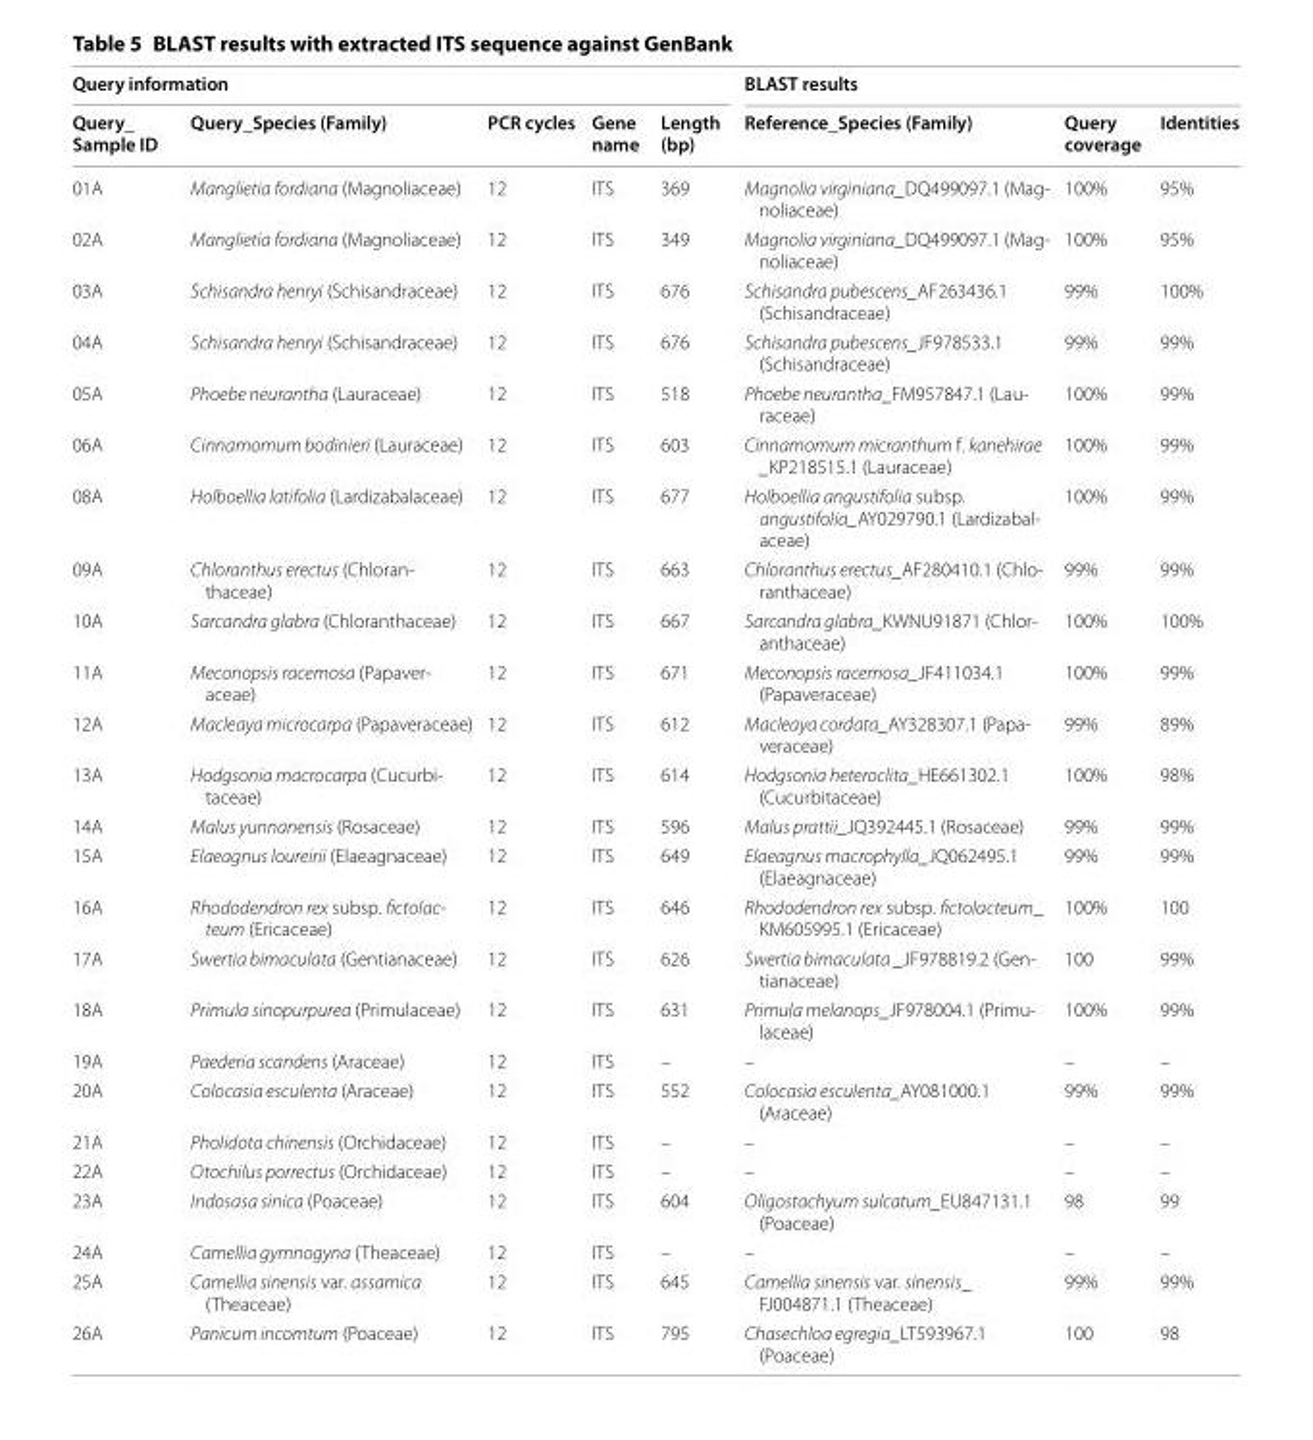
<table><thead><tr><td colspan="5">Query information</td><td colspan="3">BLAST results</td></tr><tr><td>Query_ Sample ID</td><td>Query_Species (Family)</td><td>PCR cycles</td><td>Gene name</td><td>Length (bp)</td><td>Reference_Species (Family)</td><td>Query coverage</td><td>Identities</td></tr></thead><tbody><tr><td>01A</td><td>Manglietia fordiana (Magnoliaceae)</td><td>12</td><td>ITS</td><td>369</td><td>Magnolia virginiana_DQ499097.1 (Mag‑ noliaceae)</td><td>100%</td><td>95%</td></tr><tr><td>02A</td><td>Manglietia fordiana (Magnoliaceae)</td><td>12</td><td>ITS</td><td>349</td><td>Magnolia virginiana_DQ499097.1 (Mag‑ noliaceae)</td><td>100%</td><td>95%</td></tr><tr><td>03A</td><td>Schisandra henryi (Schisandraceae)</td><td>12</td><td>ITS</td><td>676</td><td>Schisandra pubescens_AF263436.1 (Schisandraceae)</td><td>99%</td><td>100%</td></tr><tr><td>04A</td><td>Schisandra henryi (Schisandraceae)</td><td>12</td><td>ITS</td><td>676</td><td>Schisandra pubescens_JF978533.1 (Schisandraceae)</td><td>99%</td><td>99%</td></tr><tr><td>05A</td><td>Phoebe neurantha (Lauraceae)</td><td>12</td><td>ITS</td><td>518</td><td>Phoebe neurantha_FM957847.1 (Lau‑ raceae)</td><td>100%</td><td>99%</td></tr><tr><td>06A</td><td>Cinnamomum bodinieri (Lauraceae)</td><td>12</td><td>ITS</td><td>603</td><td>Cinnamomum micranthum f. kanehirae _KP218515.1 (Lauraceae)</td><td>100%</td><td>99%</td></tr><tr><td>08A</td><td>Holboellia latifolia (Lardizabalaceae)</td><td>12</td><td>ITS</td><td>677</td><td>Holboellia angustifolia subsp. angustifolia_AY029790.1 (Lardizabal‑ aceae)</td><td>100%</td><td>99%</td></tr><tr><td>09A</td><td>Chloranthus erectus (Chloran‑ thaceae)</td><td>12</td><td>ITS</td><td>663</td><td>Chloranthus erectus_AF280410.1 (Chlo‑ ranthaceae)</td><td>99%</td><td>99%</td></tr><tr><td>10A</td><td>Sarcandra glabra (Chloranthaceae)</td><td>12</td><td>ITS</td><td>667</td><td>Sarcandra glabra_KWNU91871 (Chlor‑ anthaceae)</td><td>100%</td><td>100%</td></tr><tr><td>11A</td><td>Meconopsis racemosa (Papaver‑ aceae)</td><td>12</td><td>ITS</td><td>671</td><td>Meconopsis racemosa_JF411034.1 (Papaveraceae)</td><td>100%</td><td>99%</td></tr><tr><td>12A</td><td>Macleaya microcarpa (Papaveraceae)</td><td>12</td><td>ITS</td><td>612</td><td>Macleaya cordata_AY328307.1 (Papa‑ veraceae)</td><td>99%</td><td>89%</td></tr><tr><td>13A</td><td>Hodgsonia macrocarpa (Cucurbi‑ taceae)</td><td>12</td><td>ITS</td><td>614</td><td>Hodgsonia heteroclita_HE661302.1 (Cucurbitaceae)</td><td>100%</td><td>98%</td></tr><tr><td>14A</td><td>Malus yunnanensis (Rosaceae)</td><td>12</td><td>ITS</td><td>596</td><td>Malus prattii_JQ392445.1 (Rosaceae)</td><td>99%</td><td>99%</td></tr><tr><td>15A</td><td>Elaeagnus loureirii (Elaeagnaceae)</td><td>12</td><td>ITS</td><td>649</td><td>Elaeagnus macrophylla_JQ062495.1 (Elaeagnaceae)</td><td>99%</td><td>99%</td></tr><tr><td>16A</td><td>Rhododendron rex subsp. fictolac- teum (Ericaceae)</td><td>12</td><td>ITS</td><td>646</td><td>Rhododendron rex subsp. fictolacteum_ KM605995.1 (Ericaceae)</td><td>100%</td><td>100</td></tr><tr><td>17A</td><td>Swertia bimaculata (Gentianaceae)</td><td>12</td><td>ITS</td><td>626</td><td>Swertia bimaculata _JF978819.2 (Gen‑ tianaceae)</td><td>100</td><td>99%</td></tr><tr><td>18A</td><td>Primula sinopurpurea (Primulaceae)</td><td>12</td><td>ITS</td><td>631</td><td>Primula melanops_JF978004.1 (Primu‑ laceae)</td><td>100%</td><td>99%</td></tr><tr><td>19A</td><td>Paederia scandens (Araceae)</td><td>12</td><td>ITS</td><td>–</td><td>–</td><td>–</td><td>–</td></tr><tr><td>20A</td><td>Colocasia esculenta (Araceae)</td><td>12</td><td>ITS</td><td>552</td><td>Colocasia esculenta_AY081000.1 (Araceae)</td><td>99%</td><td>99%</td></tr><tr><td>21A</td><td>Pholidota chinensis (Orchidaceae)</td><td>12</td><td>ITS</td><td>–</td><td>–</td><td>–</td><td>–</td></tr><tr><td>22A</td><td>Otochilus porrectus (Orchidaceae)</td><td>12</td><td>ITS</td><td>–</td><td>–</td><td>–</td><td>–</td></tr><tr><td>23A</td><td>Indosasa sinica (Poaceae)</td><td>12</td><td>ITS</td><td>604</td><td>Oligostachyum sulcatum_EU847131.1 (Poaceae)</td><td>98</td><td>99</td></tr><tr><td>24A</td><td>Camellia gymnogyna (Theaceae)</td><td>12</td><td>ITS</td><td>–</td><td>–</td><td>–</td><td>–</td></tr><tr><td>25A</td><td>Camellia sinensis var. assamica (Theaceae)</td><td>12</td><td>ITS</td><td>645</td><td>Camellia sinensis var. sinensis_ FJ004871.1 (Theaceae)</td><td>99%</td><td>99%</td></tr><tr><td>26A</td><td>Panicum incomtum (Poaceae)</td><td>12</td><td>ITS</td><td>795</td><td>Chasechloa egregia_LT593967.1 (Poaceae)</td><td>100</td><td>98</td></tr></tbody></table>